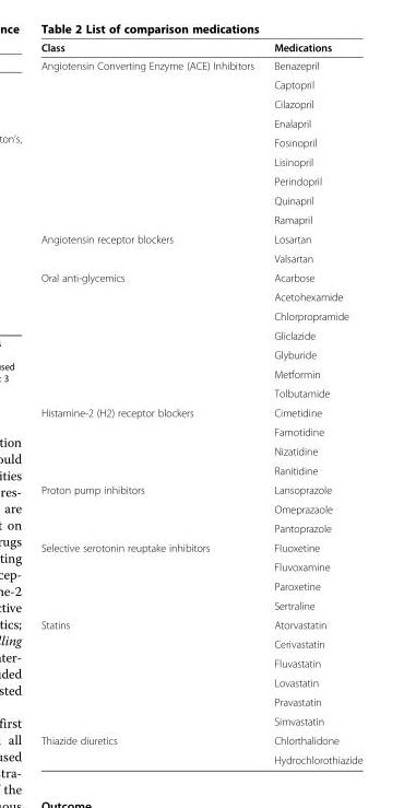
<table><thead><tr><td>Class</td><td>Medications</td></tr></thead><tbody><tr><td rowspan="9">Angiotensin Converting Enzyme (ACE) Inhibitors</td><td>Benazepril</td></tr><tr><td>Captopril</td></tr><tr><td>Cilazopril</td></tr><tr><td>Enalapril</td></tr><tr><td>Fosinopril</td></tr><tr><td>Lisinopril</td></tr><tr><td>Perindopril</td></tr><tr><td>Quinapril</td></tr><tr><td>Ramapril</td></tr><tr><td rowspan="2">Angiotensin receptor blockers</td><td>Losartan</td></tr><tr><td>Valsartan</td></tr><tr><td rowspan="7">Oral anti-glycemics</td><td>Acarbose</td></tr><tr><td>Acetohexamide</td></tr><tr><td>Chlorpropramide</td></tr><tr><td>Gliclazide</td></tr><tr><td>Glyburide</td></tr><tr><td>Metformin</td></tr><tr><td>Tolbutamide</td></tr><tr><td rowspan="4">Histamine-2 (H2) receptor blockers</td><td>Cimetidine</td></tr><tr><td>Famotidine</td></tr><tr><td>Nizatidine</td></tr><tr><td>Ranitidine</td></tr><tr><td rowspan="3">Proton pump inhibitors</td><td>Lansoprazole</td></tr><tr><td>Omeprazaole</td></tr><tr><td>Pantoprazole</td></tr><tr><td rowspan="4">Selective serotonin reuptake inhibitors</td><td>Fluoxetine</td></tr><tr><td>Fluvoxamine</td></tr><tr><td>Paroxetine</td></tr><tr><td>Sertraline</td></tr><tr><td rowspan="6">Statins</td><td>Atorvastatin</td></tr><tr><td>Cerivastatin</td></tr><tr><td>Fluvastatin</td></tr><tr><td>Lovastatin</td></tr><tr><td>Pravastatin</td></tr><tr><td>Simvastatin</td></tr><tr><td rowspan="2">Thiazide diuretics</td><td>Chlorthalidone</td></tr><tr><td>Hydrochlorothiazide</td></tr></tbody></table>